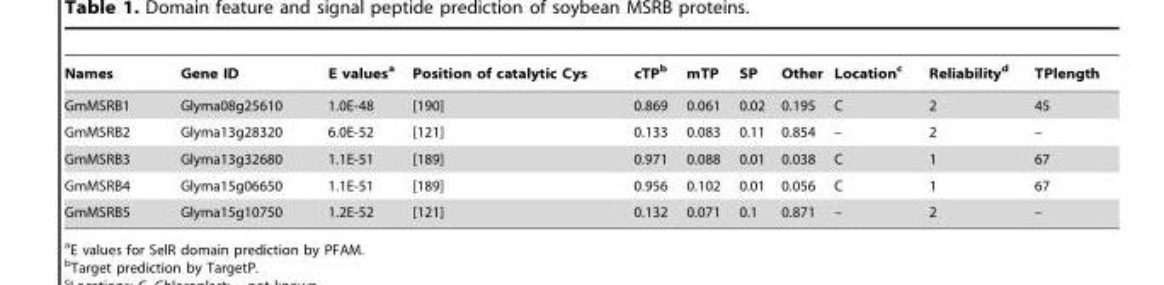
<table><thead><tr><td>Names</td><td>Gene ID</td><td>E values<sup>a</sup></td><td>Position of catalytic Cys</td><td>cTP<sup>b</sup></td><td>mTP</td><td>SP</td><td>Other</td><td>Location<sup>c</sup></td><td>Reliability<sup>d</sup></td><td>TPlength</td></tr></thead><tbody><tr><td>GmMSRB1</td><td>Glyma08g25610</td><td>1.0E-48</td><td>[190]</td><td>0.869</td><td>0.061</td><td>0.02</td><td>0.195</td><td>C</td><td>2</td><td>45</td></tr><tr><td>GmMSRB2</td><td>Glyma13g28320</td><td>6.0E-52</td><td>[121]</td><td>0.133</td><td>0.083</td><td>0.11</td><td>0.854</td><td>–</td><td>2</td><td>–</td></tr><tr><td>GmMSRB3</td><td>Glyma13g32680</td><td>1.1E-51</td><td>[189]</td><td>0.971</td><td>0.088</td><td>0.01</td><td>0.038</td><td>C</td><td>1</td><td>67</td></tr><tr><td>GmMSRB4</td><td>Glyma15g06650</td><td>1.1E-51</td><td>[189]</td><td>0.956</td><td>0.102</td><td>0.01</td><td>0.056</td><td>C</td><td>1</td><td>67</td></tr><tr><td>GmMSRB5</td><td>Glyma15g10750</td><td>1.2E-52</td><td>[121]</td><td>0.132</td><td>0.071</td><td>0.1</td><td>0.871</td><td>–</td><td>2</td><td>–</td></tr></tbody></table>